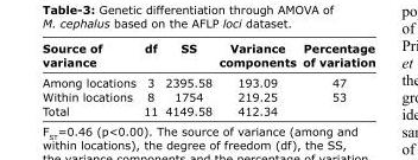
<table><thead><tr><td>Source of variance</td><td>df</td><td>SS</td><td>Variance components</td><td>Percentage of variation</td></tr></thead><tbody><tr><td>Among locations</td><td>3</td><td>2395.58</td><td>193.09</td><td>47</td></tr><tr><td>Within locations</td><td>8</td><td>1754</td><td>219.25</td><td>53</td></tr><tr><td>Total</td><td>11</td><td>4149.58</td><td>412.34</td><td></td></tr></tbody></table>